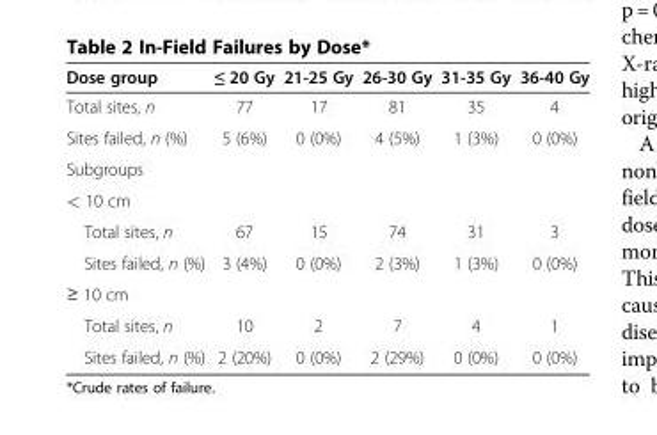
<table><thead><tr><td>Dose group</td><td>≤ 20 Gy</td><td>21-25 Gy</td><td>26-30 Gy</td><td>31-35 Gy</td><td>36-40 Gy</td></tr></thead><tbody><tr><td>Total sites, n</td><td>77</td><td>17</td><td>81</td><td>35</td><td>4</td></tr><tr><td>Sites failed, n (%)</td><td>5 (6%)</td><td>0 (0%)</td><td>4 (5%)</td><td>1 (3%)</td><td>0 (0%)</td></tr><tr><td colspan="6">Subgroups</td></tr><tr><td colspan="6">&lt; 10 cm</td></tr><tr><td>Total sites, n</td><td>67</td><td>15</td><td>74</td><td>31</td><td>3</td></tr><tr><td>Sites failed, n (%)</td><td>3 (4%)</td><td>0 (0%)</td><td>2 (3%)</td><td>1 (3%)</td><td>0 (0%)</td></tr><tr><td colspan="6">≥ 10 cm</td></tr><tr><td>Total sites, n</td><td>10</td><td>2</td><td>7</td><td>4</td><td>1</td></tr><tr><td>Sites failed, n (%)</td><td>2 (20%)</td><td>0 (0%)</td><td>2 (29%)</td><td>0 (0%)</td><td>0 (0%)</td></tr></tbody></table>